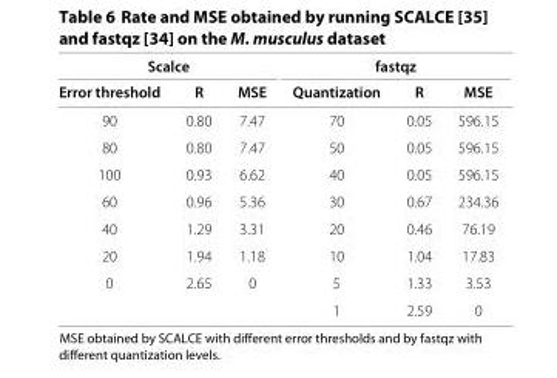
<table><thead><tr><td colspan="3">Scalce</td><td colspan="3">fastqz</td></tr><tr><td>Error threshold</td><td>R</td><td>MSE</td><td>Quantization</td><td>R</td><td>MSE</td></tr></thead><tbody><tr><td>90</td><td>0.80</td><td>7.47</td><td>70</td><td>0.05</td><td>596.15</td></tr><tr><td>80</td><td>0.80</td><td>7.47</td><td>50</td><td>0.05</td><td>596.15</td></tr><tr><td>100</td><td>0.93</td><td>6.62</td><td>40</td><td>0.05</td><td>596.15</td></tr><tr><td>60</td><td>0.96</td><td>5.36</td><td>30</td><td>0.67</td><td>234.36</td></tr><tr><td>40</td><td>1.29</td><td>3.31</td><td>20</td><td>0.46</td><td>76.19</td></tr><tr><td>20</td><td>1.94</td><td>1.18</td><td>10</td><td>1.04</td><td>17.83</td></tr><tr><td rowspan="2">0</td><td>2.65</td><td>0</td><td>5</td><td>1.33</td><td>3.53</td></tr><tr><td></td><td></td><td>1</td><td>2.59</td><td>0</td></tr></tbody></table>